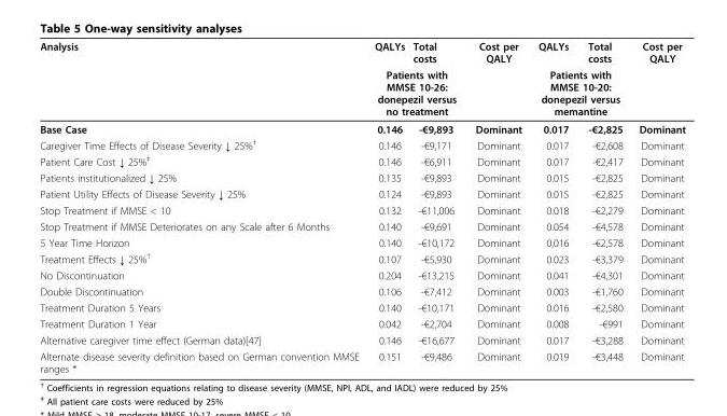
<table><thead><tr><td rowspan="2">Analysis</td><td>QALYs</td><td>Total costs</td><td rowspan="2">Cost per QALY</td><td>QALYs</td><td>Total costs</td><td rowspan="2">Cost per QALY</td></tr><tr><td colspan="2">Patients with MMSE 10-26: donepezil versus no treatment</td><td colspan="2">Patients with MMSE 10-20: donepezil versus memantine</td></tr></thead><tbody><tr><td>Base Case</td><td>0.146</td><td>-€9,893</td><td>Dominant</td><td>0.017</td><td>-€2,825</td><td>Dominant</td></tr><tr><td>Caregiver Time Effects of Disease Severity ↓ 25%<sup>†</sup></td><td>0.146</td><td>-€9,171</td><td>Dominant</td><td>0.017</td><td>-€2,608</td><td>Dominant</td></tr><tr><td>Patient Care Cost ↓ 25%<sup>‡</sup></td><td>0.146</td><td>-€6,911</td><td>Dominant</td><td>0.017</td><td>-€2,417</td><td>Dominant</td></tr><tr><td>Patients institutionalized ↓ 25%</td><td>0.135</td><td>-€9,893</td><td>Dominant</td><td>0.015</td><td>-€2,825</td><td>Dominant</td></tr><tr><td>Patient Utility Effects of Disease Severity ↓ 25%</td><td>0.124</td><td>-€9,893</td><td>Dominant</td><td>0.015</td><td>-€2,825</td><td>Dominant</td></tr><tr><td>Stop Treatment if MMSE &lt; 10</td><td>0.132</td><td>-€11,006</td><td>Dominant</td><td>0.018</td><td>-€2,279</td><td>Dominant</td></tr><tr><td>Stop Treatment if MMSE Deteriorates on any Scale after 6 Months</td><td>0.140</td><td>-€9,691</td><td>Dominant</td><td>0.054</td><td>-€4,578</td><td>Dominant</td></tr><tr><td>5 Year Time Horizon</td><td>0.140</td><td>-€10,172</td><td>Dominant</td><td>0,016</td><td>-€2,578</td><td>Dominant</td></tr><tr><td>Treatment Effects ↓ 25%<sup>†</sup></td><td>0.107</td><td>-€5,930</td><td>Dominant</td><td>0.023</td><td>-€3,379</td><td>Dominant</td></tr><tr><td>No Discontinuation</td><td>0.204</td><td>-€13,215</td><td>Dominant</td><td>0.041</td><td>-€4,301</td><td>Dominant</td></tr><tr><td>Double Discontinuation</td><td>0.106</td><td>-€7,412</td><td>Dominant</td><td>0.003</td><td>-€1,760</td><td>Dominant</td></tr><tr><td>Treatment Duration 5 Years</td><td>0.140</td><td>-€10,171</td><td>Dominant</td><td>0.016</td><td>-€2,580</td><td>Dominant</td></tr><tr><td>Treatment Duration 1 Year</td><td>0.042</td><td>-€2,704</td><td>Dominant</td><td>0.008</td><td>-€991</td><td>Dominant</td></tr><tr><td>Alternative caregiver time effect (German data)[47]</td><td>0.146</td><td>-€16,677</td><td>Dominant</td><td>0.017</td><td>-€3,288</td><td>Dominant</td></tr><tr><td>Alternate disease severity definition based on German convention MMSE ranges *</td><td>0.151</td><td>-€9,486</td><td>Dominant</td><td>0.019</td><td>-€3,448</td><td>Dominant</td></tr></tbody></table>